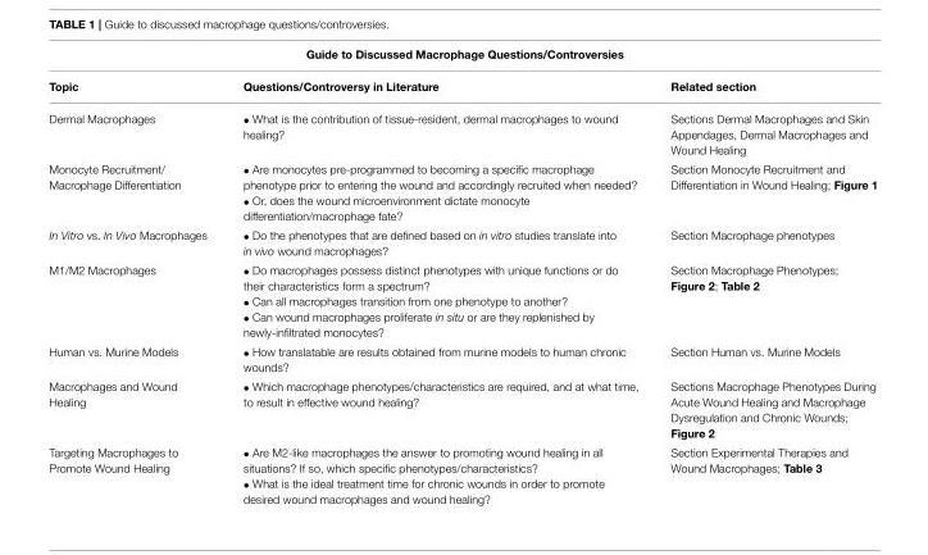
<table><thead><tr><td colspan="3">Guide to Discussed Macrophage Questions/Controversies</td></tr><tr><td>Topic</td><td>Questions/Controversy in Literature</td><td>Related section</td></tr></thead><tbody><tr><td>Dermal Macrophages</td><td>• What is the contribution of tissue-resident, dermal macrophages to wound healing?</td><td>Sections Dermal Macrophages and Skin Appendages, Dermal Macrophages and Wound Healing</td></tr><tr><td>Monocyte Recruitment/ Macrophage Differentiation</td><td>• Are monocytes pre-programmed to becoming a specific macrophage phenotype prior to entering the wound and accordingly recruited when needed? • Or, does the wound microenvironment dictate monocyte differentiation/macrophage fate?</td><td>Section Monocyte Recruitment and Differentiation in Wound Healing; Figure 1</td></tr><tr><td>In Vitro vs. In Vivo Macrophages</td><td>• Do the phenotypes that are defined based on in vitro studies translate into in vivo wound macrophages?</td><td>Section Macrophage phenotypes</td></tr><tr><td>M1/M2 Macrophages</td><td>• Do macrophages possess distinct phenotypes with unique functions or do their characteristics form a spectrum? • Can all macrophages transition from one phenotype to another? • Can wound macrophages proliferate in situ or are they replenished by newly-infiltrated monocytes?</td><td>Section Macrophage Phenotypes; Figure 2; Table 2</td></tr><tr><td>Human vs. Murine Models</td><td>• How translatable are results obtained from murine models to human chronic wounds?</td><td>Section Human vs. Murine Models</td></tr><tr><td>Macrophages and Wound Healing</td><td>• Which macrophage phenotypes/characteristics are required, and at what time, to result in effective wound healing?</td><td>Sections Macrophage Phenotypes During Acute Wound Healing and Macrophage Dysregulation and Chronic Wounds; Figure 2</td></tr><tr><td>Targeting Macrophages to Promote Wound Healing</td><td>• Are M2-like macrophages the answer to promoting wound healing in all situations? If so, which specific phenotypes/characteristics? • What is the ideal treatment time for chronic wounds in order to promote desired wound macrophages and wound healing?</td><td>Section Experimental Therapies and Wound Macrophages; Table 3</td></tr></tbody></table>